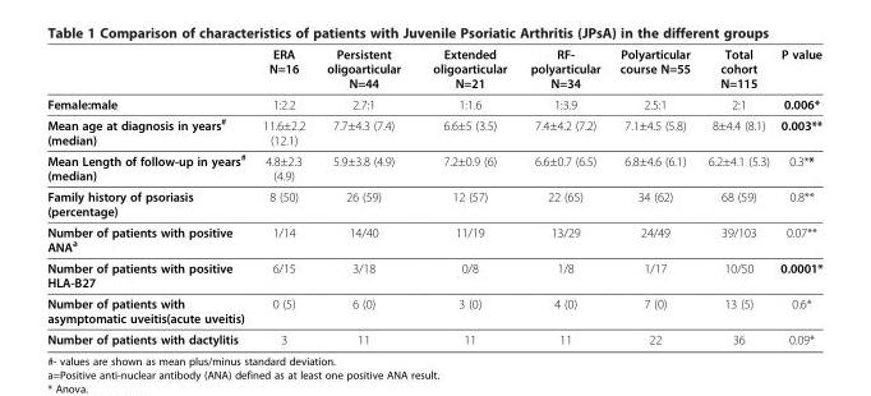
<table><thead><tr><td></td><td>ERA N=16</td><td>Persistent oligoarticular N=44</td><td>Extended oligoarticular N=21</td><td>RF- polyarticular N=34</td><td>Polyarticular course N=55</td><td>Total cohort N=115</td><td>P value</td></tr></thead><tbody><tr><td>Female:male</td><td>1:2.2</td><td>2.7:1</td><td>1:1.6</td><td>1:3.9</td><td>2.5:1</td><td>2:1</td><td>0.006*</td></tr><tr><td>Mean age at diagnosis in years<sup>#</sup> (median)</td><td>11.6±2.2 (12.1)</td><td>7.7±4.3 (7.4)</td><td>6.6±5 (3.5)</td><td>7.4±4.2 (7.2)</td><td>7.1±4.5 (5.8)</td><td>8±4.4 (8.1)</td><td>0.003**</td></tr><tr><td>Mean Length of follow-up in years<sup>#</sup> (median)</td><td>4.8±2.3 (4.9)</td><td>5.9±3.8 (4.9)</td><td>7.2±0.9 (6)</td><td>6.6±0.7 (6.5)</td><td>6.8±4.6 (6.1)</td><td>6.2±4.1 (5.3)</td><td>0.3**</td></tr><tr><td>Family history of psoriasis (percentage)</td><td>8 (50)</td><td>26 (59)</td><td>12 (57)</td><td>22 (65)</td><td>34 (62)</td><td>68 (59)</td><td>0.8**</td></tr><tr><td>Number of patients with positive ANA<sup>a</sup></td><td>1/14</td><td>14/40</td><td>11/19</td><td>13/29</td><td>24/49</td><td>39/103</td><td>0.07**</td></tr><tr><td>Number of patients with positive HLA-B27</td><td>6/15</td><td>3/18</td><td>0/8</td><td>1/8</td><td>1/17</td><td>10/50</td><td>0.0001*</td></tr><tr><td>Number of patients with asymptomatic uveitis(acute uveitis)</td><td>0 (5)</td><td>6 (0)</td><td>3 (0)</td><td>4 (0)</td><td>7 (0)</td><td>13 (5)</td><td>0.6*</td></tr><tr><td>Number of patients with dactylitis</td><td>3</td><td>11</td><td>11</td><td>11</td><td>22</td><td>36</td><td>0.09*</td></tr></tbody></table>